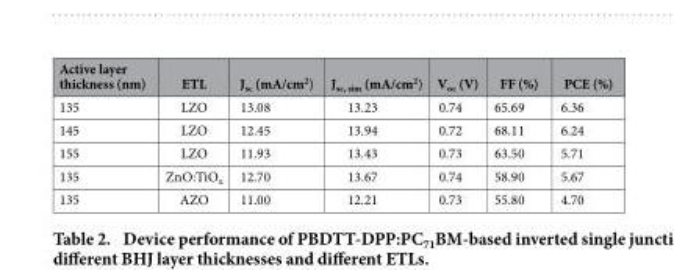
<table><thead><tr><td>Active layer thickness (nm)</td><td>ETL</td><td>J<sub>sc</sub> (mA/cm<sup>2</sup>)</td><td>J<sub>sc, sim</sub> (mA/cm<sup>2</sup>)</td><td>V<sub>oc</sub> (V)</td><td>FF (%)</td><td>PCE (%)</td></tr></thead><tbody><tr><td>135</td><td>LZO</td><td>13.08</td><td>13.23</td><td>0.74</td><td>65.69</td><td>6.36</td></tr><tr><td>145</td><td>LZO</td><td>12.45</td><td>13.94</td><td>0.72</td><td>68.11</td><td>6.24</td></tr><tr><td>155</td><td>LZO</td><td>11.93</td><td>13.43</td><td>0.73</td><td>63.50</td><td>5.71</td></tr><tr><td>135</td><td>ZnO:TiO<sub>x</sub></td><td>12.70</td><td>13.67</td><td>0.74</td><td>58.90</td><td>5.67</td></tr><tr><td>135</td><td>AZO</td><td>11.00</td><td>12.21</td><td>0.73</td><td>55.80</td><td>4.70</td></tr></tbody></table>